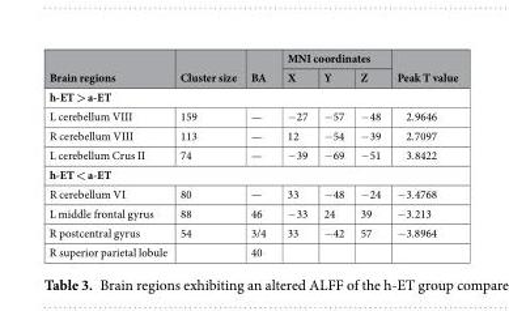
<table><thead><tr><td rowspan="2">Brain regions</td><td rowspan="2">Cluster size</td><td rowspan="2">BA</td><td colspan="3">MNI coordinates</td><td rowspan="2">Peak T value</td></tr><tr><td>X</td><td>Y</td><td>Z</td></tr></thead><tbody><tr><td colspan="7">h-ET &gt; a-ET</td></tr><tr><td>L cerebellum VIII</td><td>159</td><td>—</td><td>−27</td><td>−57</td><td>−48</td><td>2.9646</td></tr><tr><td>R cerebellum VIII</td><td>113</td><td>—</td><td>12</td><td>−54</td><td>−39</td><td>2.7097</td></tr><tr><td>L cerebellum Crus II</td><td>74</td><td>—</td><td>−39</td><td>−69</td><td>−51</td><td>3.8422</td></tr><tr><td colspan="7">h-ET &lt; a-ET</td></tr><tr><td>R cerebellum VI</td><td>80</td><td>—</td><td>33</td><td>−48</td><td>−24</td><td>−3.4768</td></tr><tr><td>L middle frontal gyrus</td><td>88</td><td>46</td><td>−33</td><td>24</td><td>39</td><td>−3.213</td></tr><tr><td>R postcentral gyrus</td><td>54</td><td>3/4</td><td>33</td><td>−42</td><td>57</td><td>−3.8964</td></tr><tr><td>R superior parietal lobule</td><td></td><td>40</td><td></td><td></td><td></td><td></td></tr></tbody></table>